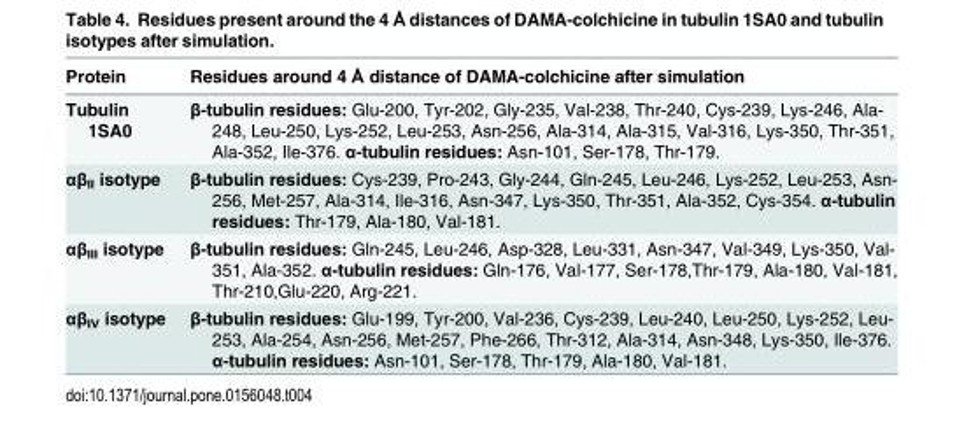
<table><thead><tr><td>Protein</td><td>Residues around 4 Å distance of DAMA-colchicine after simulation</td></tr></thead><tbody><tr><td>Tubulin 1SA0</td><td>β-tubulin residues: Glu-200, Tyr-202, Gly-235, Val-238, Thr-240, Cys-239, Lys-246, Ala- 248, Leu-250, Lys-252, Leu-253, Asn-256, Ala-314, Ala-315, Val-316, Lys-350, Thr-351, Ala-352, Ile-376. α-tubulin residues: Asn-101, Ser-178, Thr-179.</td></tr><tr><td>αβ<sub>II</sub> isotype</td><td>β-tubulin residues: Cys-239, Pro-243, Gly-244, Gln-245, Leu-246, Lys-252, Leu-253, Asn- 256, Met-257, Ala-314, Ile-316, Asn-347, Lys-350, Thr-351, Ala-352, Cys-354. α-tubulin residues: Thr-179, Ala-180, Val-181.</td></tr><tr><td>αβ<sub>III</sub> isotype</td><td>β-tubulin residues: Gln-245, Leu-246, Asp-328, Leu-331, Asn-347, Val-349, Lys-350, Val- 351, Ala-352. α-tubulin residues: Gln-176, Val-177, Ser-178,Thr-179, Ala-180, Val-181, Thr-210,Glu-220, Arg-221.</td></tr><tr><td>αβ<sub>IV</sub> isotype</td><td>β-tubulin residues: Glu-199, Tyr-200, Val-236, Cys-239, Leu-240, Leu-250, Lys-252, Leu- 253, Ala-254, Asn-256, Met-257, Phe-266, Thr-312, Ala-314, Asn-348, Lys-350, Ile-376. α-tubulin residues: Asn-101, Ser-178, Thr-179, Ala-180, Val-181.</td></tr></tbody></table>